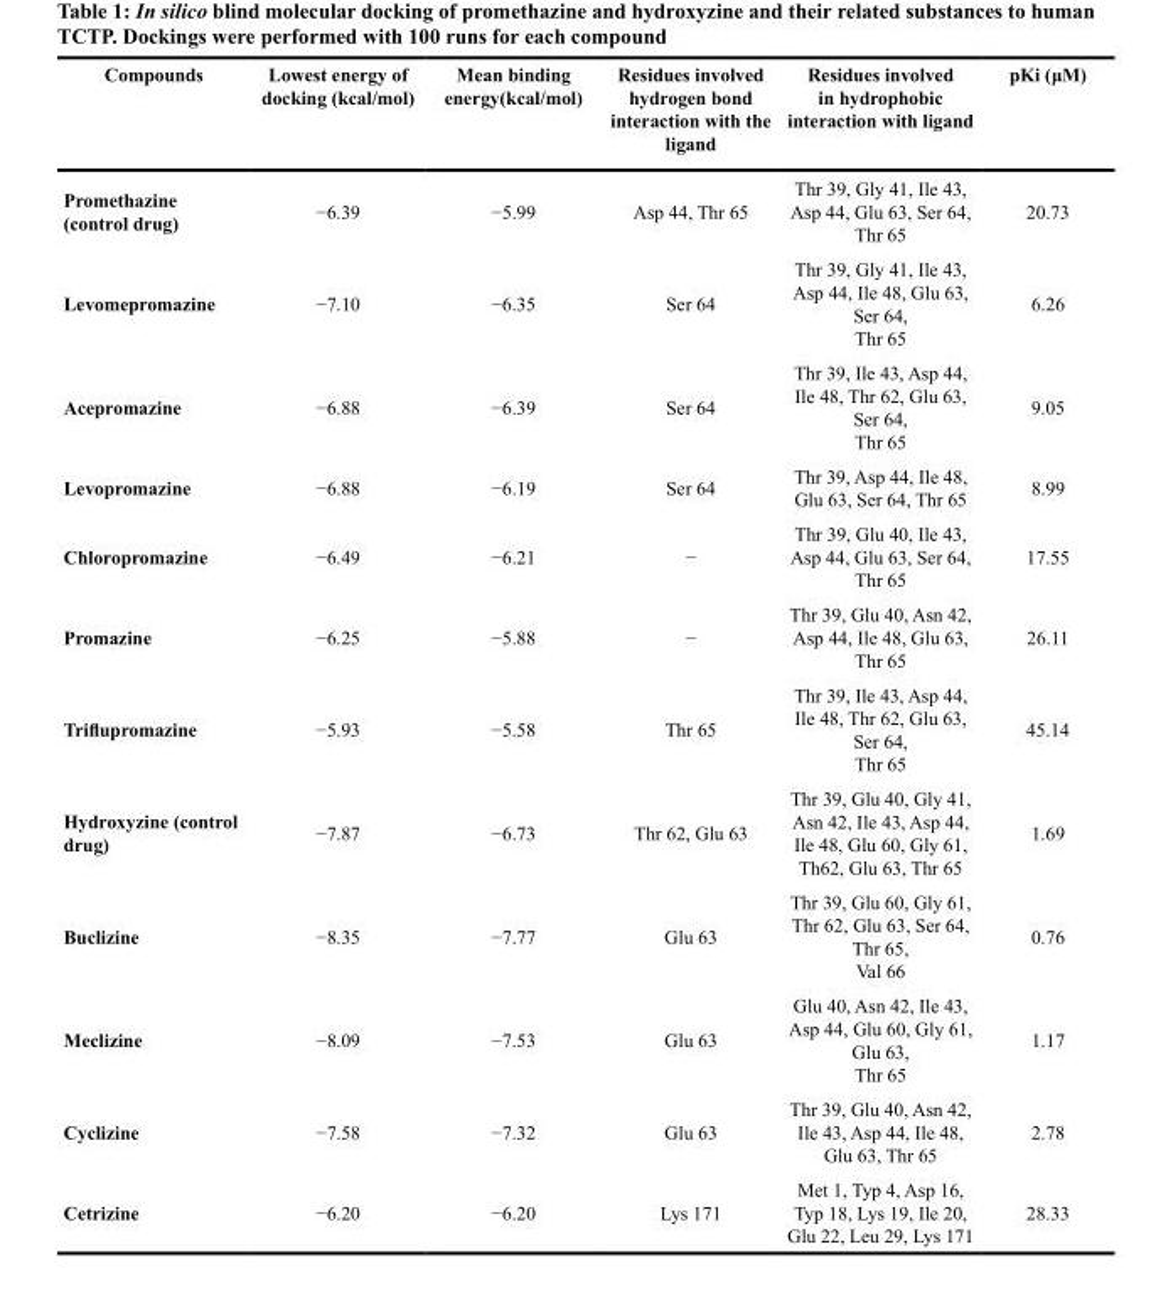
<table><thead><tr><td>Compounds</td><td>Lowest energy of docking (kcal/mol)</td><td>Mean binding energy(kcal/mol)</td><td>Residues involved hydrogen bond interaction with the ligand</td><td>Residues involved in hydrophobic interaction with ligand</td><td>pKi (μM)</td></tr></thead><tbody><tr><td>Promethazine (control drug)</td><td>−6.39</td><td>−5.99</td><td>Asp 44, Thr 65</td><td>Thr 39, Gly 41, Ile 43, Asp 44, Glu 63, Ser 64, Thr 65</td><td>20.73</td></tr><tr><td>Levomepromazine</td><td>−7.10</td><td>−6.35</td><td>Ser 64</td><td>Thr 39, Gly 41, Ile 43, Asp 44, Ile 48, Glu 63, Ser 64, Thr 65</td><td>6.26</td></tr><tr><td>Acepromazine</td><td>−6.88</td><td>−6.39</td><td>Ser 64</td><td>Thr 39, Ile 43, Asp 44, Ile 48, Thr 62, Glu 63, Ser 64, Thr 65</td><td>9.05</td></tr><tr><td>Levopromazine</td><td>−6.88</td><td>−6.19</td><td>Ser 64</td><td>Thr 39, Asp 44, Ile 48, Glu 63, Ser 64, Thr 65</td><td>8.99</td></tr><tr><td>Chloropromazine</td><td>−6.49</td><td>−6.21</td><td>−</td><td>Thr 39, Glu 40, Ile 43, Asp 44, Glu 63, Ser 64, Thr 65</td><td>17.55</td></tr><tr><td>Promazine</td><td>−6.25</td><td>−5.88</td><td>−</td><td>Thr 39, Glu 40, Asn 42, Asp 44, Ile 48, Glu 63, Thr 65</td><td>26.11</td></tr><tr><td>Triflupromazine</td><td>−5.93</td><td>−5.58</td><td>Thr 65</td><td>Thr 39, Ile 43, Asp 44, Ile 48, Thr 62, Glu 63, Ser 64, Thr 65</td><td>45.14</td></tr><tr><td>Hydroxyzine (control drug)</td><td>−7.87</td><td>−6.73</td><td>Thr 62, Glu 63</td><td>Thr 39, Glu 40, Gly 41, Asn 42, Ile 43, Asp 44, Ile 48, Glu 60, Gly 61, Th62, Glu 63, Thr 65</td><td>1.69</td></tr><tr><td>Buclizine</td><td>−8.35</td><td>−7.77</td><td>Glu 63</td><td>Thr 39, Glu 60, Gly 61, Thr 62, Glu 63, Ser 64, Thr 65, Val 66</td><td>0.76</td></tr><tr><td>Meclizine</td><td>−8.09</td><td>−7.53</td><td>Glu 63</td><td>Glu 40, Asn 42, Ile 43, Asp 44, Glu 60, Gly 61, Glu 63, Thr 65</td><td>1.17</td></tr><tr><td>Cyclizine</td><td>−7.58</td><td>−7.32</td><td>Glu 63</td><td>Thr 39, Glu 40, Asn 42, Ile 43, Asp 44, Ile 48, Glu 63, Thr 65</td><td>2.78</td></tr><tr><td>Cetrizine</td><td>−6.20</td><td>−6.20</td><td>Lys 171</td><td>Met 1, Typ 4, Asp 16, Typ 18, Lys 19, Ile 20, Glu 22, Leu 29, Lys 171</td><td>28.33</td></tr></tbody></table>